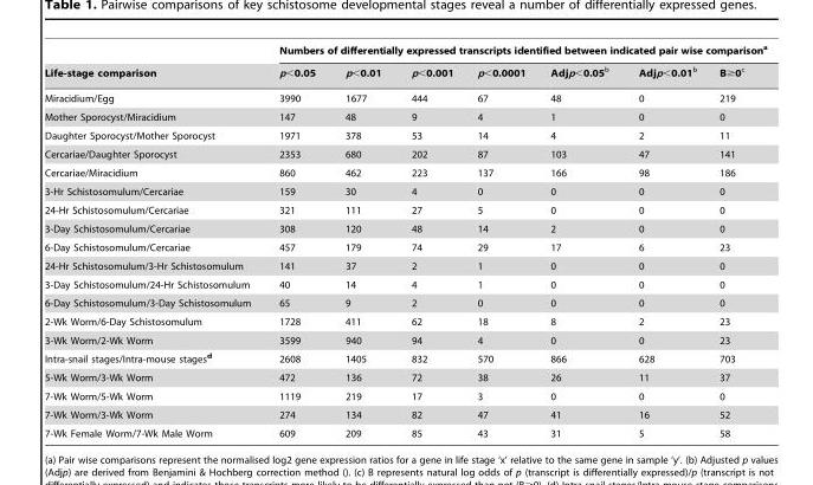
<table><thead><tr><td rowspan="2">Life-stage comparison</td><td colspan="7">Numbers of differentially expressed transcripts identified between indicated pair wise comparison<sup>a</sup></td></tr><tr><td>p&lt;0.05</td><td>p&lt;0.01</td><td>p&lt;0.001</td><td>p&lt;0.0001</td><td>Adjp&lt;0.05<sup>b</sup></td><td>Adjp&lt;0.01<sup>b</sup></td><td>B≥0<sup>c</sup></td></tr></thead><tbody><tr><td>Miracidium/Egg</td><td>3990</td><td>1677</td><td>444</td><td>67</td><td>48</td><td>0</td><td>219</td></tr><tr><td>Mother Sporocyst/Miracidium</td><td>147</td><td>48</td><td>9</td><td>4</td><td>1</td><td>0</td><td>0</td></tr><tr><td>Daughter Sporocyst/Mother Sporocyst</td><td>1971</td><td>378</td><td>53</td><td>14</td><td>4</td><td>2</td><td>11</td></tr><tr><td>Cercariae/Daughter Sporocyst</td><td>2353</td><td>680</td><td>202</td><td>87</td><td>103</td><td>47</td><td>141</td></tr><tr><td>Cercariae/Miracidium</td><td>860</td><td>462</td><td>223</td><td>137</td><td>166</td><td>98</td><td>186</td></tr><tr><td>3-Hr Schistosomulum/Cercariae</td><td>159</td><td>30</td><td>4</td><td>0</td><td>0</td><td>0</td><td>0</td></tr><tr><td>24-Hr Schistosomulum/Cercariae</td><td>321</td><td>111</td><td>27</td><td>5</td><td>0</td><td>0</td><td>0</td></tr><tr><td>3-Day Schistosomulum/Cercariae</td><td>308</td><td>120</td><td>48</td><td>14</td><td>2</td><td>0</td><td>0</td></tr><tr><td>6-Day Schistosomulum/Cercariae</td><td>457</td><td>179</td><td>74</td><td>29</td><td>17</td><td>6</td><td>23</td></tr><tr><td>24-Hr Schistosomulum/3-Hr Schistosomulum</td><td>141</td><td>37</td><td>2</td><td>1</td><td>0</td><td>0</td><td>0</td></tr><tr><td>3-Day Schistosomulum/24-Hr Schistosomulum</td><td>40</td><td>14</td><td>4</td><td>1</td><td>0</td><td>0</td><td>0</td></tr><tr><td>6-Day Schistosomulum/3-Day Schistosomulum</td><td>65</td><td>9</td><td>2</td><td>0</td><td>0</td><td>0</td><td>0</td></tr><tr><td>2-Wk Worm/6-Day Schistosomulum</td><td>1728</td><td>411</td><td>62</td><td>18</td><td>8</td><td>2</td><td>23</td></tr><tr><td>3-Wk Worm/2-Wk Worm</td><td>3599</td><td>940</td><td>94</td><td>4</td><td>0</td><td>0</td><td>23</td></tr><tr><td>Intra-snail stages/Intra-mouse stages<sup>d</sup></td><td>2608</td><td>1405</td><td>832</td><td>570</td><td>866</td><td>628</td><td>703</td></tr><tr><td>5-Wk Worm/3-Wk Worm</td><td>472</td><td>136</td><td>72</td><td>38</td><td>26</td><td>11</td><td>37</td></tr><tr><td>7-Wk Worm/5-Wk Worm</td><td>1119</td><td>219</td><td>17</td><td>3</td><td>0</td><td>0</td><td>0</td></tr><tr><td>7-Wk Worm/3-Wk Worm</td><td>274</td><td>134</td><td>82</td><td>47</td><td>41</td><td>16</td><td>52</td></tr><tr><td>7-Wk Female Worm/7-Wk Male Worm</td><td>609</td><td>209</td><td>85</td><td>43</td><td>31</td><td>5</td><td>58</td></tr></tbody></table>